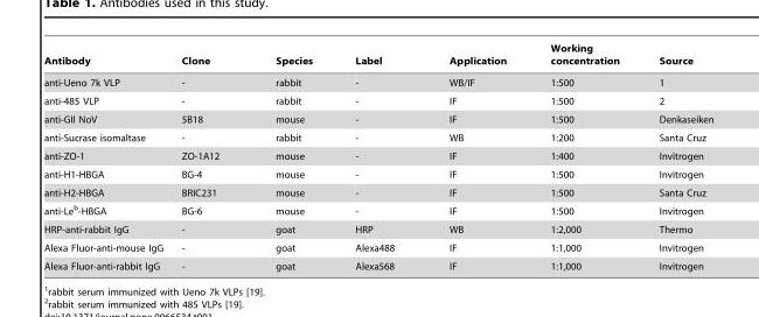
<table><thead><tr><td>Antibody</td><td>Clone</td><td>Species</td><td>Label</td><td>Application</td><td>Working concentration</td><td>Source</td></tr></thead><tbody><tr><td>anti-Ueno 7k VLP</td><td>-</td><td>rabbit</td><td>-</td><td>WB/IF</td><td>1:500</td><td>1</td></tr><tr><td>anti-485 VLP</td><td>-</td><td>rabbit</td><td>-</td><td>IF</td><td>1:500</td><td>2</td></tr><tr><td>anti-GII NoV</td><td>5B18</td><td>mouse</td><td>-</td><td>IF</td><td>1:500</td><td>Denkaseiken</td></tr><tr><td>anti-Sucrase isomaltase</td><td>-</td><td>rabbit</td><td>-</td><td>WB</td><td>1:200</td><td>Santa Cruz</td></tr><tr><td>anti-ZO-1</td><td>ZO-1A12</td><td>mouse</td><td>-</td><td>IF</td><td>1:400</td><td>Invitrogen</td></tr><tr><td>anti-H1-HBGA</td><td>BG-4</td><td>mouse</td><td>-</td><td>IF</td><td>1:500</td><td>Invitrogen</td></tr><tr><td>anti-H2-HBGA</td><td>BRIC231</td><td>mouse</td><td>-</td><td>IF</td><td>1:500</td><td>Santa Cruz</td></tr><tr><td>anti-Le<sup>b</sup>-HBGA</td><td>BG-6</td><td>mouse</td><td>-</td><td>IF</td><td>1:500</td><td>Invitrogen</td></tr><tr><td>HRP-anti-rabbit IgG</td><td>-</td><td>goat</td><td>HRP</td><td>WB</td><td>1:2,000</td><td>Thermo</td></tr><tr><td>Alexa Fluor-anti-mouse IgG</td><td>-</td><td>goat</td><td>Alexa488</td><td>IF</td><td>1:1,000</td><td>Invitrogen</td></tr><tr><td>Alexa Fluor-anti-rabbit IgG</td><td>-</td><td>goat</td><td>Alexa568</td><td>IF</td><td>1:1,000</td><td>Invitrogen</td></tr></tbody></table>